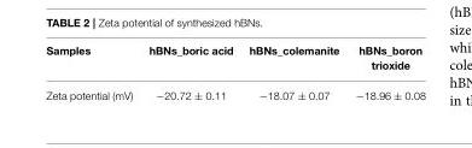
<table><thead><tr><td>Samples</td><td>hBNs_boric acid</td><td>hBNs_colemanite</td><td>hBNs_boron trioxide</td></tr></thead><tbody><tr><td>Zeta potential (mV)</td><td>−20.72 ± 0.11</td><td>−18.07 ± 0.07</td><td>−18.96 ± 0.08</td></tr></tbody></table>